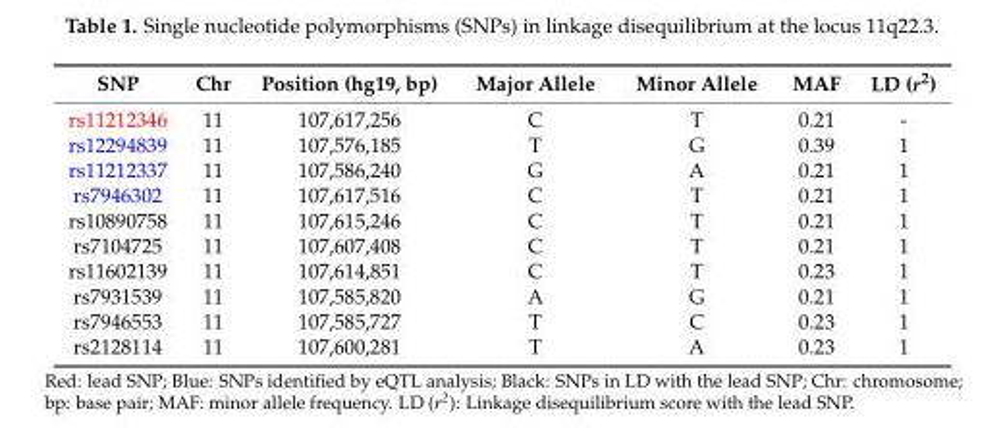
<table><thead><tr><td>SNP</td><td>Chr</td><td>Position (hg19, bp)</td><td>Major Allele</td><td>Minor Allele</td><td>MAF</td><td>LD (r<sup>2</sup>)</td></tr></thead><tbody><tr><td>rs11212346</td><td>11</td><td>107,617,256</td><td>C</td><td>T</td><td>0.21</td><td>-</td></tr><tr><td>rs12294839</td><td>11</td><td>107,576,185</td><td>T</td><td>G</td><td>0.39</td><td>1</td></tr><tr><td>rs11212337</td><td>11</td><td>107,586,240</td><td>G</td><td>A</td><td>0.21</td><td>1</td></tr><tr><td>rs7946302</td><td>11</td><td>107,617,516</td><td>C</td><td>T</td><td>0.21</td><td>1</td></tr><tr><td>rs10890758</td><td>11</td><td>107,615,246</td><td>C</td><td>T</td><td>0.21</td><td>1</td></tr><tr><td>rs7104725</td><td>11</td><td>107,607,408</td><td>C</td><td>T</td><td>0.21</td><td>1</td></tr><tr><td>rs11602139</td><td>11</td><td>107,614,851</td><td>C</td><td>T</td><td>0.23</td><td>1</td></tr><tr><td>rs7931539</td><td>11</td><td>107,585,820</td><td>A</td><td>G</td><td>0.21</td><td>1</td></tr><tr><td>rs7946553</td><td>11</td><td>107,585,727</td><td>T</td><td>C</td><td>0.23</td><td>1</td></tr><tr><td>rs2128114</td><td>11</td><td>107,600,281</td><td>T</td><td>A</td><td>0.23</td><td>1</td></tr></tbody></table>